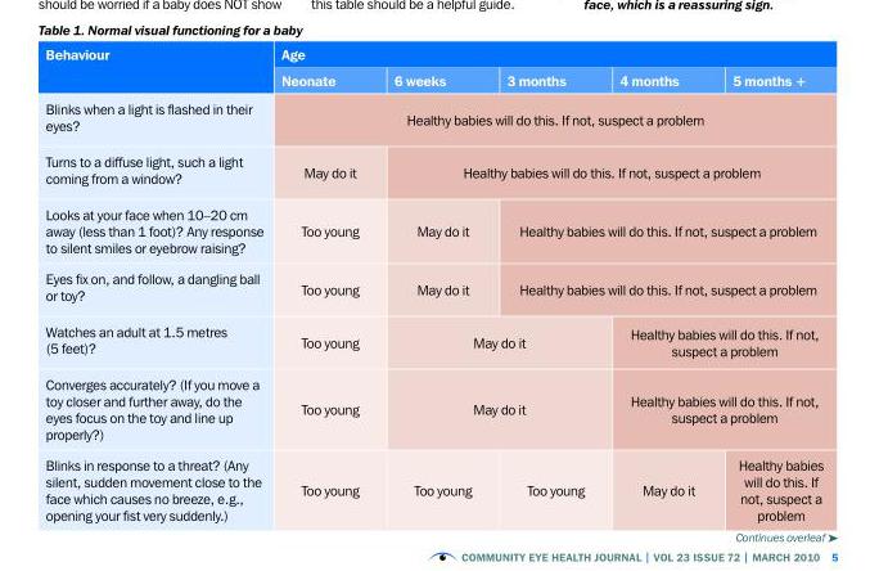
<table><thead><tr><td rowspan="2">Behaviour</td><td colspan="5">age</td></tr><tr><td>neonate</td><td>6 weeks</td><td>3 months</td><td>4 months</td><td>5 months +</td></tr></thead><tbody><tr><td>Blinks when a light is flashed in their eyes?</td><td colspan="5">Healthy babies will do this. If not, suspect a problem</td></tr><tr><td>Turns to a diffuse light, such a light coming from a window?</td><td>May do it</td><td colspan="4">Healthy babies will do this. If not, suspect a problem</td></tr><tr><td>Looks at your face when 10–20 cm away (less than 1 foot)? Any response to silent smiles or eyebrow raising?</td><td>Too young</td><td>May do it</td><td colspan="3">Healthy babies will do this. If not, suspect a problem</td></tr><tr><td>Eyes fix on, and follow, a dangling ball or toy?</td><td>Too young</td><td>May do it</td><td colspan="3">Healthy babies will do this. If not, suspect a problem</td></tr><tr><td>Watches an adult at 1.5 metres (5 feet)?</td><td>Too young</td><td colspan="2">May do it</td><td colspan="2">Healthy babies will do this. If not, suspect a problem</td></tr><tr><td>Converges accurately? (If you move a toy closer and further away, do the eyes focus on the toy and line up properly?)</td><td>Too young</td><td colspan="2">May do it</td><td colspan="2">Healthy babies will do this. If not, suspect a problem</td></tr><tr><td>Blinks in response to a threat? (Any silent, sudden movement close to the face which causes no breeze, e.g., opening your fist very suddenly.)</td><td>Too young</td><td>Too young</td><td>Too young</td><td>May do it</td><td>Healthy babies will do this. If not, suspect a problem</td></tr></tbody></table>